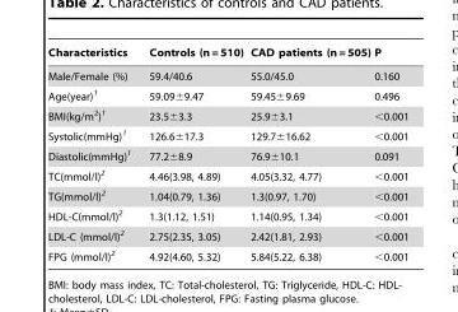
<table><thead><tr><td>Characteristics</td><td>Controls (n = 510)</td><td>CAD patients (n = 505)</td><td>P</td></tr></thead><tbody><tr><td>Male/Female (%)</td><td>59.4/40.6</td><td>55.0/45.0</td><td>0.160</td></tr><tr><td>Age(year)<sup>1</sup></td><td>59.09±9.47</td><td>59.45±9.69</td><td>0.496</td></tr><tr><td>BMI(kg/m<sup>2</sup>)<sup>1</sup></td><td>23.5±3.3</td><td>25.9±3.1</td><td>&lt;0.001</td></tr><tr><td>Systolic(mmHg)<sup>1</sup></td><td>126.6±17.3</td><td>129.7±16.62</td><td>&lt;0.001</td></tr><tr><td>Diastolic(mmHg)<sup>1</sup></td><td>77.2±8.9</td><td>76.9±10.1</td><td>0.091</td></tr><tr><td>TC(mmol/l)<sup>2</sup></td><td>4.46(3.98, 4.89)</td><td>4.05(3.32, 4.77)</td><td>&lt;0.001</td></tr><tr><td>TG(mmol/l)<sup>2</sup></td><td>1.04(0.79, 1.36)</td><td>1.3(0.97, 1.70)</td><td>&lt;0.001</td></tr><tr><td>HDL-C(mmol/l)<sup>2</sup></td><td>1.3(1.12, 1.51)</td><td>1.14(0.95, 1.34)</td><td>&lt;0.001</td></tr><tr><td>LDL-C (mmol/l)<sup>2</sup></td><td>2.75(2.35, 3.05)</td><td>2.42(1.81, 2.93)</td><td>&lt;0.001</td></tr><tr><td>FPG (mmol/l)<sup>2</sup></td><td>4.92(4.60, 5.32)</td><td>5.84(5.22, 6.38)</td><td>&lt;0.001</td></tr></tbody></table>